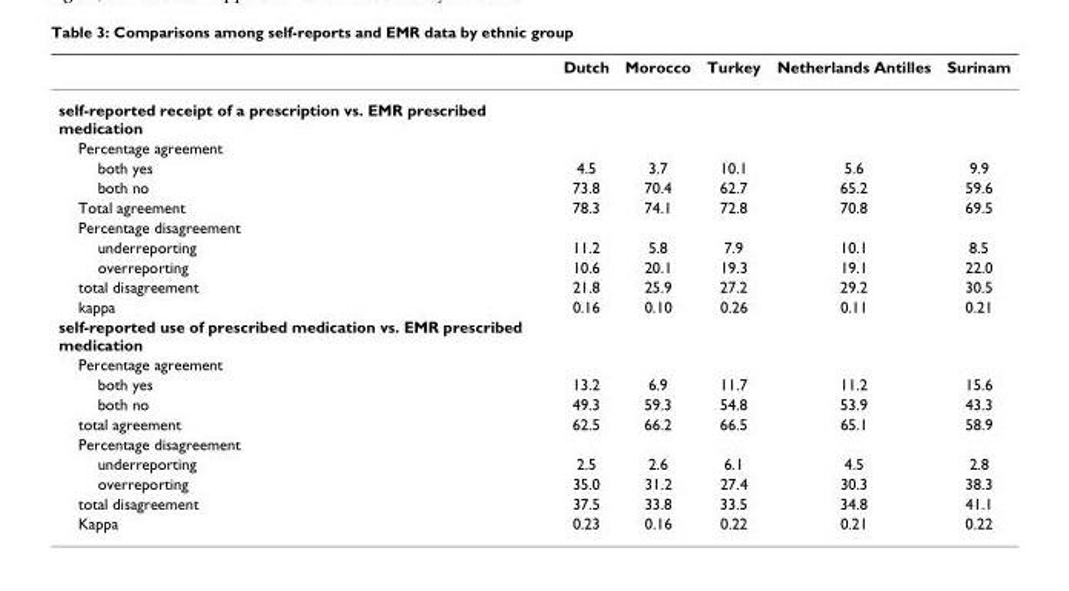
<table><thead><tr><td></td><td>Dutch</td><td>Morocco</td><td>Turkey</td><td>Netherlands Antilles</td><td>Surinam</td></tr></thead><tbody><tr><td colspan="6">self-reported receipt of a prescription vs. EMR prescribed medication</td></tr><tr><td colspan="6">Percentage agreement</td></tr><tr><td>both yes</td><td>4.5</td><td>3.7</td><td>10.1</td><td>5.6</td><td>9.9</td></tr><tr><td>both no</td><td>73.8</td><td>70.4</td><td>62.7</td><td>65.2</td><td>59.6</td></tr><tr><td>Total agreement</td><td>78.3</td><td>74.1</td><td>72.8</td><td>70.8</td><td>69.5</td></tr><tr><td colspan="6">Percentage disagreement</td></tr><tr><td>underreporting</td><td>11.2</td><td>5.8</td><td>7.9</td><td>10.1</td><td>8.5</td></tr><tr><td>overreporting</td><td>10.6</td><td>20.1</td><td>19.3</td><td>19.1</td><td>22.0</td></tr><tr><td>total disagreement</td><td>21.8</td><td>25.9</td><td>27.2</td><td>29.2</td><td>30.5</td></tr><tr><td>kappa</td><td>0.16</td><td>0.10</td><td>0.26</td><td>0.11</td><td>0.21</td></tr><tr><td colspan="6">self-reported use of prescribed medication vs. EMR prescribed medication</td></tr><tr><td colspan="6">Percentage agreement</td></tr><tr><td>both yes</td><td>13.2</td><td>6.9</td><td>11.7</td><td>11.2</td><td>15.6</td></tr><tr><td>both no</td><td>49.3</td><td>59.3</td><td>54.8</td><td>53.9</td><td>43.3</td></tr><tr><td>total agreement</td><td>62.5</td><td>66.2</td><td>66.5</td><td>65.1</td><td>58.9</td></tr><tr><td colspan="6">Percentage disagreement</td></tr><tr><td>underreporting</td><td>2.5</td><td>2.6</td><td>6.1</td><td>4.5</td><td>2.8</td></tr><tr><td>overreporting</td><td>35.0</td><td>31.2</td><td>27.4</td><td>30.3</td><td>38.3</td></tr><tr><td>total disagreement</td><td>37.5</td><td>33.8</td><td>33.5</td><td>34.8</td><td>41.1</td></tr><tr><td>Kappa</td><td>0.23</td><td>0.16</td><td>0.22</td><td>0.21</td><td>0.22</td></tr></tbody></table>